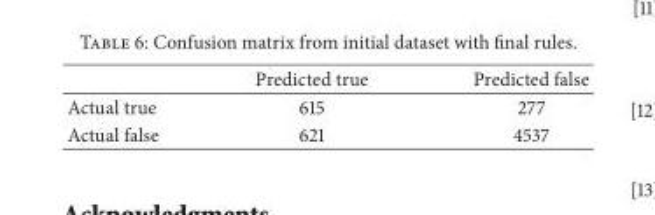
<table><thead><tr><td></td><td>Predicted true</td><td>Predicted false</td></tr></thead><tbody><tr><td>Actual true</td><td>615</td><td>277</td></tr><tr><td>Actual false</td><td>621</td><td>4537</td></tr></tbody></table>